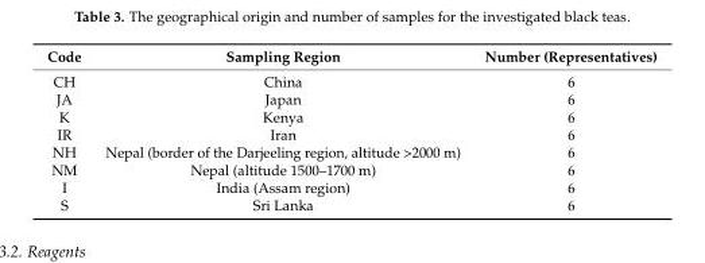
<table><thead><tr><td>Code</td><td>Sampling Region</td><td>Number (Representatives)</td></tr></thead><tbody><tr><td>CH</td><td>China</td><td>6</td></tr><tr><td>JA</td><td>Japan</td><td>6</td></tr><tr><td>K</td><td>Kenya</td><td>6</td></tr><tr><td>IR</td><td>Iran</td><td>6</td></tr><tr><td>NH</td><td>Nepal (border of the Darjeeling region, altitude &gt;2000 m)</td><td>6</td></tr><tr><td>NM</td><td>Nepal (altitude 1500–1700 m)</td><td>6</td></tr><tr><td>I</td><td>India (Assam region)</td><td>6</td></tr><tr><td>S</td><td>Sri Lanka</td><td>6</td></tr></tbody></table>